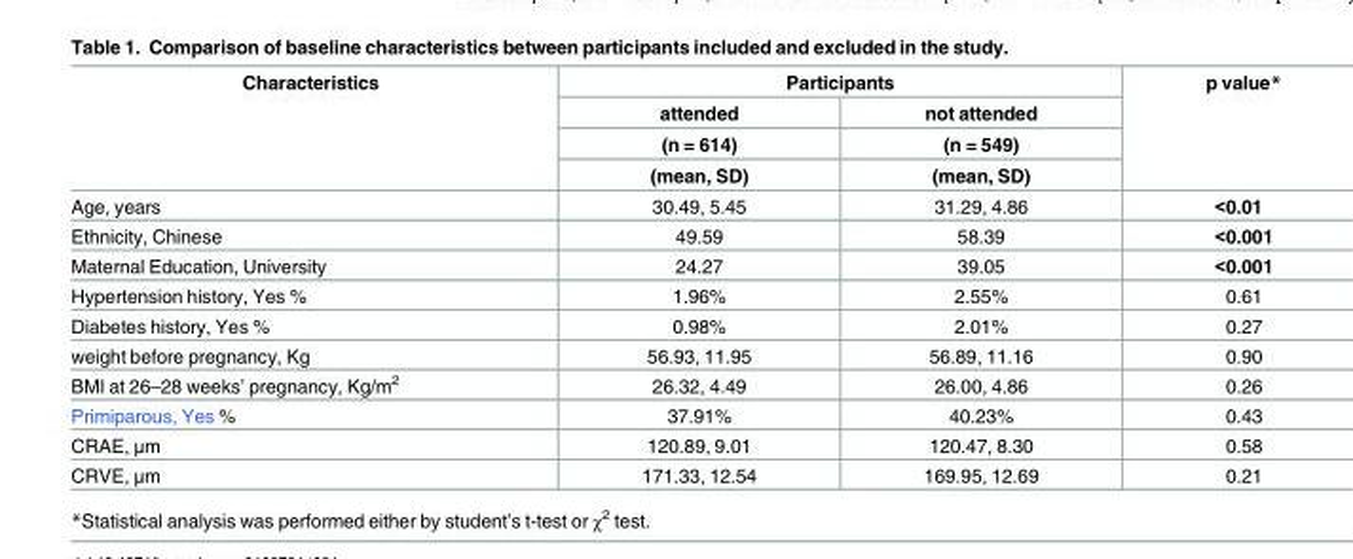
<table><thead><tr><td rowspan="4">Characteristics</td><td colspan="2">Participants</td><td rowspan="4">p value*</td></tr><tr><td rowspan="3">attended (n = 614) (mean, SD)</td><td rowspan="3">not attended (n = 549) (mean, SD)</td></tr><tr></tr><tr></tr></thead><tbody><tr><td>Age, years</td><td>30.49, 5.45</td><td>31.29, 4.86</td><td>&lt;0.01</td></tr><tr><td>Ethnicity, Chinese</td><td>49.59</td><td>58.39</td><td>&lt;0.001</td></tr><tr><td>Maternal Education, University</td><td>24.27</td><td>39.05</td><td>&lt;0.001</td></tr><tr><td>Hypertension history, Yes %</td><td>1.96%</td><td>2.55%</td><td>0.61</td></tr><tr><td>Diabetes history, Yes %</td><td>0.98%</td><td>2.01%</td><td>0.27</td></tr><tr><td>weight before pregnancy, Kg</td><td>56.93, 11.95</td><td>56.89, 11.16</td><td>0.90</td></tr><tr><td>BMI at 26–28 weeks’ pregnancy, Kg/m<sup>2</sup></td><td>26.32, 4.49</td><td>26.00, 4.86</td><td>0.26</td></tr><tr><td>Primiparous, Yes %</td><td>37.91%</td><td>40.23%</td><td>0.43</td></tr><tr><td>CRAE, μm</td><td>120.89, 9.01</td><td>120.47, 8.30</td><td>0.58</td></tr><tr><td>CRVE, μm</td><td>171.33, 12.54</td><td>169.95, 12.69</td><td>0.21</td></tr></tbody></table>